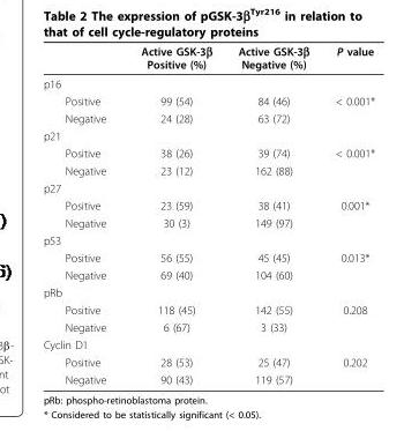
<table><thead><tr><td></td><td>Active GSK-3β Positive (%)</td><td>Active GSK-3β Negative (%)</td><td>P value</td></tr></thead><tbody><tr><td colspan="4">p16</td></tr><tr><td>Positive</td><td>99 (54)</td><td>84 (46)</td><td>&lt; 0.001*</td></tr><tr><td>Negative</td><td>24 (28)</td><td>63 (72)</td><td></td></tr><tr><td colspan="4">p21</td></tr><tr><td>Positive</td><td>38 (26)</td><td>39 (74)</td><td>&lt; 0.001*</td></tr><tr><td>Negative</td><td>23 (12)</td><td>162 (88)</td><td></td></tr><tr><td colspan="4">p27</td></tr><tr><td>Positive</td><td>23 (59)</td><td>38 (41)</td><td>0.001*</td></tr><tr><td>Negative</td><td>30 (3)</td><td>149 (97)</td><td></td></tr><tr><td colspan="4">p53</td></tr><tr><td>Positive</td><td>56 (55)</td><td>45 (45)</td><td>0.013*</td></tr><tr><td>Negative</td><td>69 (40)</td><td>104 (60)</td><td></td></tr><tr><td colspan="4">pRb</td></tr><tr><td>Positive</td><td>118 (45)</td><td>142 (55)</td><td>0.208</td></tr><tr><td>Negative</td><td>6 (67)</td><td>3 (33)</td><td></td></tr><tr><td colspan="4">Cyclin D1</td></tr><tr><td>Positive</td><td>28 (53)</td><td>25 (47)</td><td>0.202</td></tr><tr><td>Negative</td><td>90 (43)</td><td>119 (57)</td><td></td></tr></tbody></table>